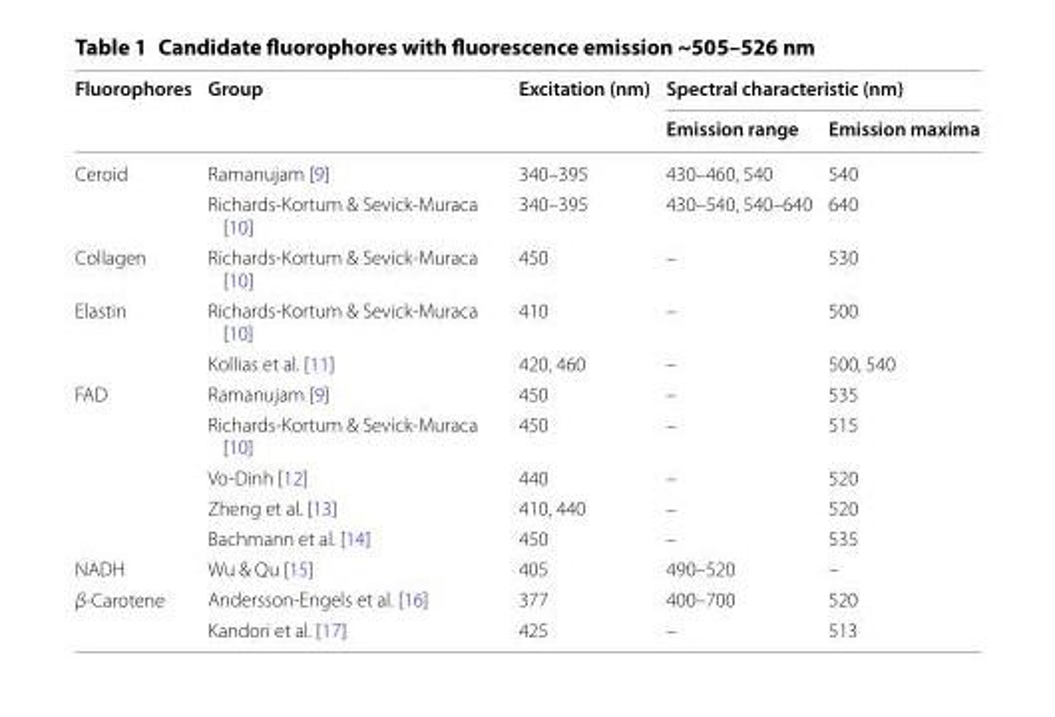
<table><thead><tr><td rowspan="2">Fluorophores</td><td rowspan="2">Group</td><td rowspan="2">Excitation (nm)</td><td colspan="2">Spectral characteristic (nm)</td></tr><tr><td>Emission range</td><td>Emission maxima</td></tr></thead><tbody><tr><td rowspan="2">Ceroid</td><td>Ramanujam [9]</td><td>340–395</td><td>430–460, 540</td><td>540</td></tr><tr><td>Richards‑Kortum &amp; Sevick‑Muraca [10]</td><td>340–395</td><td>430–540, 540–640</td><td>640</td></tr><tr><td>Collagen</td><td>Richards‑Kortum &amp; Sevick‑Muraca [10]</td><td>450</td><td>–</td><td>530</td></tr><tr><td rowspan="2">Elastin</td><td>Richards‑Kortum &amp; Sevick‑Muraca [10]</td><td>410</td><td>–</td><td>500</td></tr><tr><td>Kollias et al. [11]</td><td>420, 460</td><td>–</td><td>500, 540</td></tr><tr><td rowspan="5">FAD</td><td>Ramanujam [9]</td><td>450</td><td>–</td><td>535</td></tr><tr><td>Richards‑Kortum &amp; Sevick‑Muraca [10]</td><td>450</td><td>–</td><td>515</td></tr><tr><td>Vo‑Dinh [12]</td><td>440</td><td>–</td><td>520</td></tr><tr><td>Zheng et al. [13]</td><td>410, 440</td><td>–</td><td>520</td></tr><tr><td>Bachmann et al. [14]</td><td>450</td><td>–</td><td>535</td></tr><tr><td>NADH</td><td>Wu &amp; Qu [15]</td><td>405</td><td>490–520</td><td>–</td></tr><tr><td rowspan="2">β‑Carotene</td><td>Andersson‑Engels et al. [16]</td><td>377</td><td>400–700</td><td>520</td></tr><tr><td>Kandori et al. [17]</td><td>425</td><td>–</td><td>513</td></tr></tbody></table>